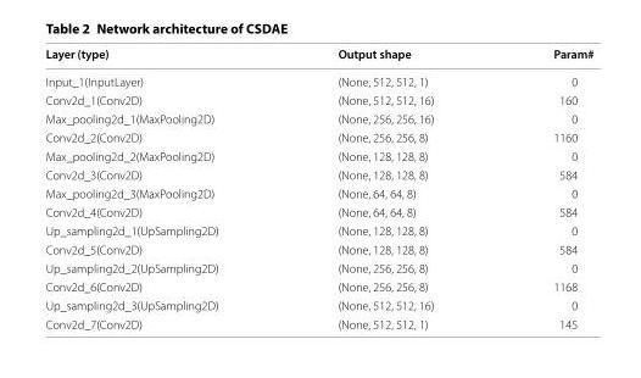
<table><thead><tr><td>Layer (type)</td><td>Output shape</td><td>Param#</td></tr></thead><tbody><tr><td>Input_1(InputLayer)</td><td>(None, 512, 512, 1)</td><td>0</td></tr><tr><td>Conv2d_1(Conv2D)</td><td>(None, 512, 512, 16)</td><td>160</td></tr><tr><td>Max_pooling2d_1(MaxPooling2D)</td><td>(None, 256, 256, 16)</td><td>0</td></tr><tr><td>Conv2d_2(Conv2D)</td><td>(None, 256, 256, 8)</td><td>1160</td></tr><tr><td>Max_pooling2d_2(MaxPooling2D)</td><td>(None, 128, 128, 8)</td><td>0</td></tr><tr><td>Conv2d_3(Conv2D)</td><td>(None, 128, 128, 8)</td><td>584</td></tr><tr><td>Max_pooling2d_3(MaxPooling2D)</td><td>(None, 64, 64, 8)</td><td>0</td></tr><tr><td>Conv2d_4(Conv2D)</td><td>(None, 64, 64, 8)</td><td>584</td></tr><tr><td>Up_sampling2d_1(UpSampling2D)</td><td>(None, 128, 128, 8)</td><td>0</td></tr><tr><td>Conv2d_5(Conv2D)</td><td>(None, 128, 128, 8)</td><td>584</td></tr><tr><td>Up_sampling2d_2(UpSampling2D)</td><td>(None, 256, 256, 8)</td><td>0</td></tr><tr><td>Conv2d_6(Conv2D)</td><td>(None, 256, 256, 8)</td><td>1168</td></tr><tr><td>Up_sampling2d_3(UpSampling2D)</td><td>(None, 512, 512, 16)</td><td>0</td></tr><tr><td>Conv2d_7(Conv2D)</td><td>(None, 512, 512, 1)</td><td>145</td></tr></tbody></table>